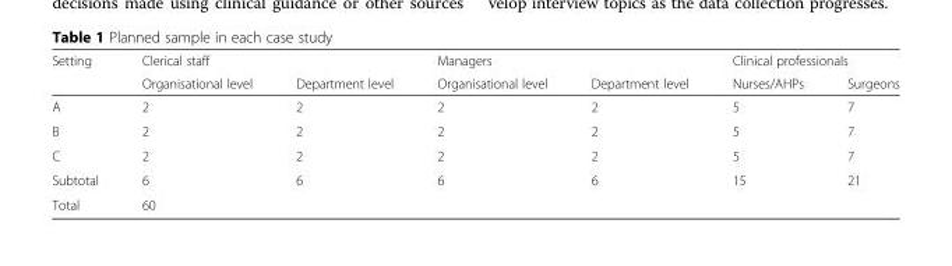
<table><thead><tr><td rowspan="2">Setting</td><td colspan="2">Clerical staff</td><td colspan="2">Managers</td><td colspan="2">Clinical professionals</td></tr><tr><td>Organisational level</td><td>Department level</td><td>Organisational level</td><td>Department level</td><td>Nurses/AHPs</td><td>Surgeons</td></tr></thead><tbody><tr><td>A</td><td>2</td><td>2</td><td>2</td><td>2</td><td>5</td><td>7</td></tr><tr><td>B</td><td>2</td><td>2</td><td>2</td><td>2</td><td>5</td><td>7</td></tr><tr><td>C</td><td>2</td><td>2</td><td>2</td><td>2</td><td>5</td><td>7</td></tr><tr><td>Subtotal</td><td>6</td><td>6</td><td>6</td><td>6</td><td>15</td><td>21</td></tr><tr><td>Total</td><td colspan="6">60</td></tr></tbody></table>